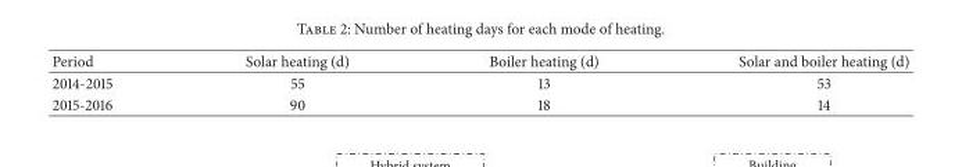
<table><thead><tr><td>Period</td><td>Solar heating (d)</td><td>Boiler heating (d)</td><td>Solar and boiler heating (d)</td></tr></thead><tbody><tr><td>2014-2015</td><td>55</td><td>13</td><td>53</td></tr><tr><td>2015-2016</td><td>90</td><td>18</td><td>14</td></tr></tbody></table>